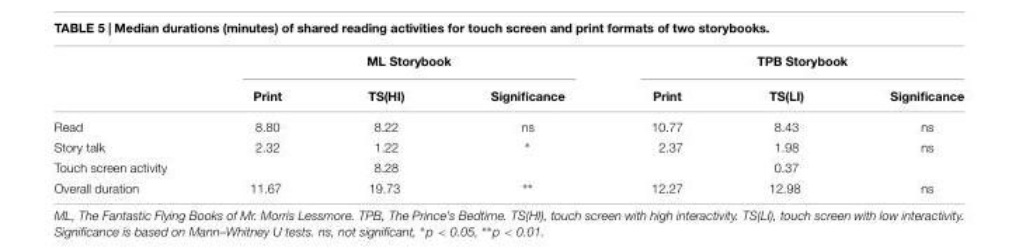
<table><thead><tr><td rowspan="2"></td><td colspan="3">ML Storybook</td><td colspan="3">TPB Storybook</td></tr><tr><td>Print</td><td>TS(HI)</td><td>Significance</td><td>Print</td><td>TS(LI)</td><td>Significance</td></tr></thead><tbody><tr><td>Read</td><td>8.80</td><td>8.22</td><td>ns</td><td>10.77</td><td>8.43</td><td>ns</td></tr><tr><td>Story talk</td><td>2.32</td><td>1.22</td><td>∗</td><td>2.37</td><td>1.98</td><td>ns</td></tr><tr><td>Touch screen activity</td><td></td><td>8.28</td><td></td><td></td><td>0.37</td><td></td></tr><tr><td>Overall duration</td><td>11.67</td><td>19.73</td><td>∗∗</td><td>12.27</td><td>12.98</td><td>ns</td></tr></tbody></table>